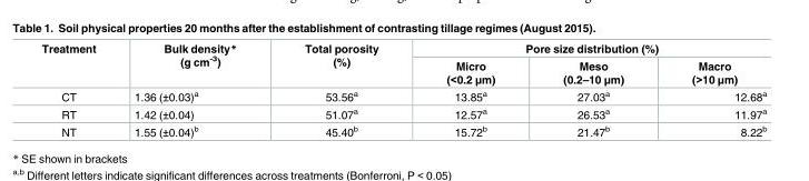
<table><thead><tr><td rowspan="2">Treatment</td><td rowspan="2">Bulk density* (g cm<sup>-3</sup>)</td><td rowspan="2">Total porosity (%)</td><td colspan="3">Pore size distribution (%)</td></tr><tr><td>Micro (&lt;0.2 μm)</td><td>Meso (0.2–10 μm)</td><td>Macro (&gt;10 μm)</td></tr></thead><tbody><tr><td>CT</td><td>1.36 (±0.03)<sup>a</sup></td><td>53.56<sup>a</sup></td><td>13.85<sup>a</sup></td><td>27.03<sup>a</sup></td><td>12.68<sup>a</sup></td></tr><tr><td>RT</td><td>1.42 (±0.04)</td><td>51.07<sup>a</sup></td><td>12.57<sup>a</sup></td><td>26.53<sup>a</sup></td><td>11.97<sup>a</sup></td></tr><tr><td>NT</td><td>1.55 (±0.04)<sup>b</sup></td><td>45.40<sup>b</sup></td><td>15.72<sup>b</sup></td><td>21.47<sup>b</sup></td><td>8.22<sup>b</sup></td></tr></tbody></table>